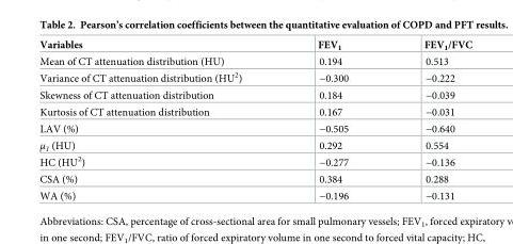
<table><thead><tr><td>Variables</td><td>FEV<sub>1</sub></td><td>FEV<sub>1</sub>/FVC</td></tr></thead><tbody><tr><td>Mean of CT attenuation distribution (HU)</td><td>0.194</td><td>0.513</td></tr><tr><td>Variance of CT attenuation distribution (HU<sup>2</sup>)</td><td>−0.300</td><td>−0.222</td></tr><tr><td>Skewness of CT attenuation distribution</td><td>0.184</td><td>−0.039</td></tr><tr><td>Kurtosis of CT attenuation distribution</td><td>0.167</td><td>−0.031</td></tr><tr><td>LAV (%)</td><td>−0.505</td><td>−0.640</td></tr><tr><td>μ<sub>1</sub> (HU)</td><td>0.292</td><td>0.554</td></tr><tr><td>HC (HU<sup>2</sup>)</td><td>−0.277</td><td>−0.136</td></tr><tr><td>CSA (%)</td><td>0.384</td><td>0.288</td></tr><tr><td>WA (%)</td><td>−0.196</td><td>−0.131</td></tr></tbody></table>